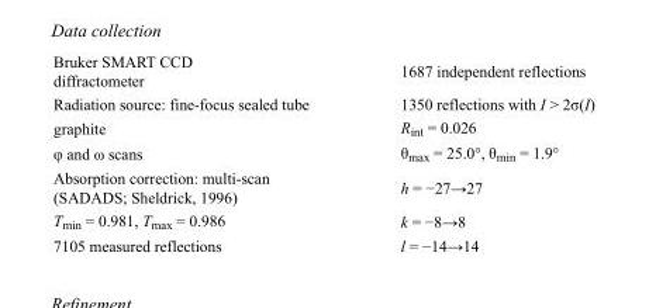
<table><tbody><tr><td>Bruker SMART CCD diffractometer</td><td>1687 independent reflections</td></tr><tr><td>Radiation source: fine-focus sealed tube</td><td>1350 reflections with I &gt; 2σ(I)</td></tr><tr><td>graphite</td><td>R<sub>int</sub> = 0.026</td></tr><tr><td>φ and ω scans</td><td>θ<sub>max</sub> = 25.0°, θ<sub>min</sub> = 1.9°</td></tr><tr><td>Absorption correction: multi-scan (SADADS; Sheldrick, 1996)</td><td>h = −27→27</td></tr><tr><td>T<sub>min</sub> = 0.981, T<sub>max</sub> = 0.986</td><td>k = −8→8</td></tr><tr><td>7105 measured reflections</td><td>l = −14→14</td></tr></tbody></table>